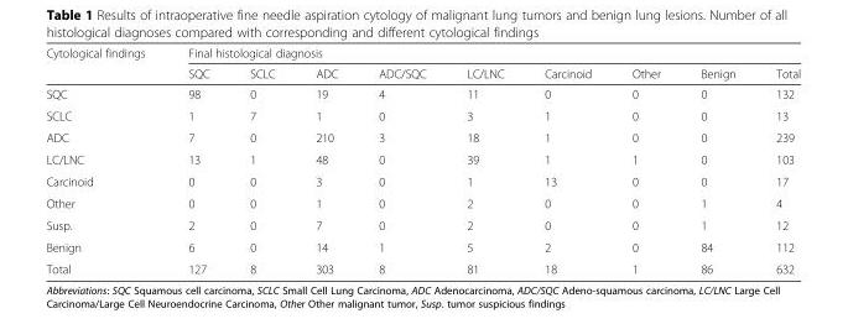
<table><thead><tr><td rowspan="2">Cytological findings</td><td colspan="9">Final histological diagnosis</td></tr><tr><td>SQC</td><td>SCLC</td><td>ADC</td><td>ADC/SQC</td><td>LC/LNC</td><td>Carcinoid</td><td>Other</td><td>Benign</td><td>Total</td></tr></thead><tbody><tr><td>SQC</td><td>98</td><td>0</td><td>19</td><td>4</td><td>11</td><td>0</td><td>0</td><td>0</td><td>132</td></tr><tr><td>SCLC</td><td>1</td><td>7</td><td>1</td><td>0</td><td>3</td><td>1</td><td>0</td><td>0</td><td>13</td></tr><tr><td>ADC</td><td>7</td><td>0</td><td>210</td><td>3</td><td>18</td><td>1</td><td>0</td><td>0</td><td>239</td></tr><tr><td>LC/LNC</td><td>13</td><td>1</td><td>48</td><td>0</td><td>39</td><td>1</td><td>1</td><td>0</td><td>103</td></tr><tr><td>Carcinoid</td><td>0</td><td>0</td><td>3</td><td>0</td><td>1</td><td>13</td><td>0</td><td>0</td><td>17</td></tr><tr><td>Other</td><td>0</td><td>0</td><td>1</td><td>0</td><td>2</td><td>0</td><td>0</td><td>1</td><td>4</td></tr><tr><td>Susp.</td><td>2</td><td>0</td><td>7</td><td>0</td><td>2</td><td>0</td><td>0</td><td>1</td><td>12</td></tr><tr><td>Benign</td><td>6</td><td>0</td><td>14</td><td>1</td><td>5</td><td>2</td><td>0</td><td>84</td><td>112</td></tr><tr><td>Total</td><td>127</td><td>8</td><td>303</td><td>8</td><td>81</td><td>18</td><td>1</td><td>86</td><td>632</td></tr></tbody></table>